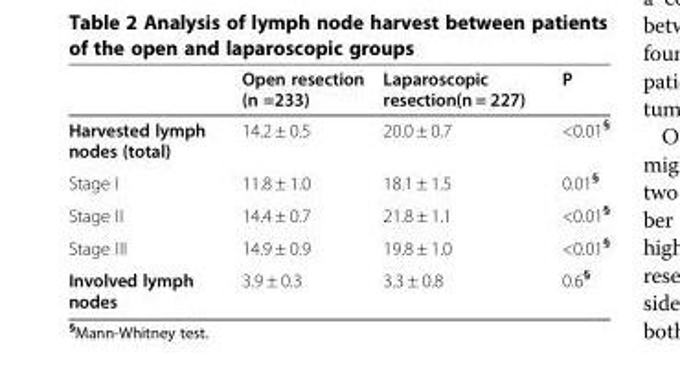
<table><thead><tr><td></td><td>Open resection (n =233)</td><td>Laparoscopic resection(n = 227)</td><td>P</td></tr></thead><tbody><tr><td>Harvested lymph nodes (total)</td><td>14.2 ± 0.5</td><td>20.0 ± 0.7</td><td>&lt;0.01<sup>§</sup></td></tr><tr><td>Stage I</td><td>11.8 ± 1.0</td><td>18.1 ± 1.5</td><td>0.01<sup>§</sup></td></tr><tr><td>Stage II</td><td>14.4 ± 0.7</td><td>21.8 ± 1.1</td><td>&lt;0.01<sup>§</sup></td></tr><tr><td>Stage III</td><td>14.9 ± 0.9</td><td>19.8 ± 1.0</td><td>&lt;0.01<sup>§</sup></td></tr><tr><td>Involved lymph nodes</td><td>3.9 ± 0.3</td><td>3.3 ± 0.8</td><td>0.6<sup>§</sup></td></tr></tbody></table>